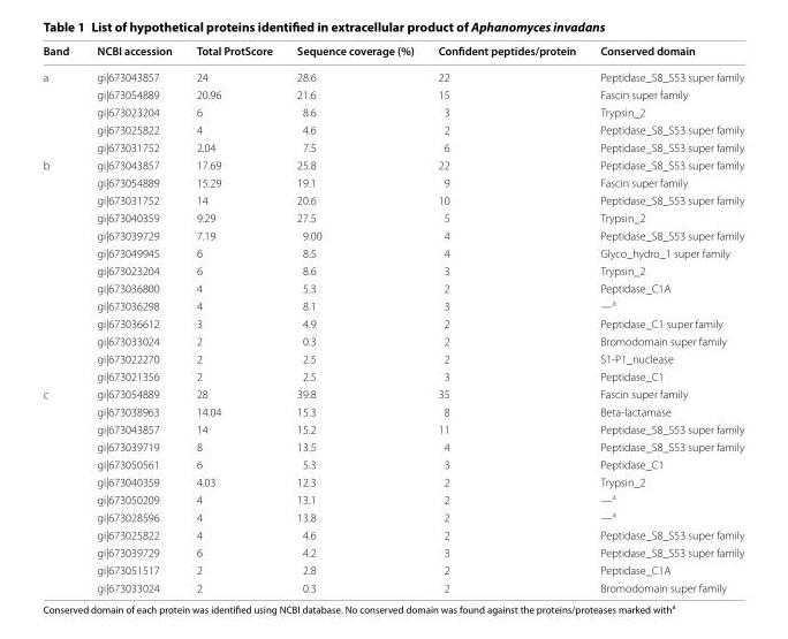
<table><thead><tr><td>Band</td><td>NCBI accession</td><td>Total ProtScore</td><td>Sequence coverage (%)</td><td>Confident peptides/protein</td><td>Conserved domain</td></tr></thead><tbody><tr><td rowspan="5">a</td><td>gi|673043857</td><td>24</td><td>28.6</td><td>22</td><td>Peptidase_S8_S53 super family</td></tr><tr><td>gi|673054889</td><td>20.96</td><td>21.6</td><td>15</td><td>Fascin super family</td></tr><tr><td>gi|673023204</td><td>6</td><td>8.6</td><td>3</td><td>Trypsin_2</td></tr><tr><td>gi|673025822</td><td>4</td><td>4.6</td><td>2</td><td>Peptidase_S8_S53 super family</td></tr><tr><td>gi|673031752</td><td>2.04</td><td>7.5</td><td>6</td><td>Peptidase_S8_S53 super family</td></tr><tr><td rowspan="13">b</td><td>gi|673043857</td><td>17.69</td><td>25.8</td><td>22</td><td>Peptidase_S8_S53 super family</td></tr><tr><td>gi|673054889</td><td>15.29</td><td>19.1</td><td>9</td><td>Fascin super family</td></tr><tr><td>gi|673031752</td><td>14</td><td>20.6</td><td>10</td><td>Peptidase_S8_S53 super family</td></tr><tr><td>gi|673040359</td><td>9.29</td><td>27.5</td><td>5</td><td>Trypsin_2</td></tr><tr><td>gi|673039729</td><td>7.19</td><td>9.00</td><td>4</td><td>Peptidase_S8_S53 super family</td></tr><tr><td>gi|673049945</td><td>6</td><td>8.5</td><td>4</td><td>Glyco_hydro_1 super family</td></tr><tr><td>gi|673023204</td><td>6</td><td>8.6</td><td>3</td><td>Trypsin_2</td></tr><tr><td>gi|673036800</td><td>4</td><td>5.3</td><td>2</td><td>Peptidase_C1A</td></tr><tr><td>gi|673036298</td><td>4</td><td>8.1</td><td>3</td><td>—<sup>a</sup></td></tr><tr><td>gi|673036612</td><td>3</td><td>4.9</td><td>2</td><td>Peptidase_C1 super family</td></tr><tr><td>gi|673033024</td><td>2</td><td>0.3</td><td>2</td><td>Bromodomain super family</td></tr><tr><td>gi|673022270</td><td>2</td><td>2.5</td><td>2</td><td>S1‑P1_nuclease</td></tr><tr><td>gi|673021356</td><td>2</td><td>2.5</td><td>3</td><td>Peptidase_C1</td></tr><tr><td rowspan="12">c</td><td>gi|673054889</td><td>28</td><td>39.8</td><td>35</td><td>Fascin super family</td></tr><tr><td>gi|673038963</td><td>14.04</td><td>15.3</td><td>8</td><td>Beta‑lactamase</td></tr><tr><td>gi|673043857</td><td>14</td><td>15.2</td><td>11</td><td>Peptidase_S8_S53 super family</td></tr><tr><td>gi|673039719</td><td>8</td><td>13.5</td><td>4</td><td>Peptidase_S8_S53 super family</td></tr><tr><td>gi|673050561</td><td>6</td><td>5.3</td><td>3</td><td>Peptidase_C1</td></tr><tr><td>gi|673040359</td><td>4.03</td><td>12.3</td><td>2</td><td>Trypsin_2</td></tr><tr><td>gi|673050209</td><td>4</td><td>13.1</td><td>2</td><td>—<sup>a</sup></td></tr><tr><td>gi|673028596</td><td>4</td><td>13.8</td><td>2</td><td>—<sup>a</sup></td></tr><tr><td>gi|673025822</td><td>4</td><td>4.6</td><td>2</td><td>Peptidase_S8_S53 super family</td></tr><tr><td>gi|673039729</td><td>6</td><td>4.2</td><td>3</td><td>Peptidase_S8_S53 super family</td></tr><tr><td>gi|673051517</td><td>2</td><td>2.8</td><td>2</td><td>Peptidase_C1A</td></tr><tr><td>gi|673033024</td><td>2</td><td>0.3</td><td>2</td><td>Bromodomain super family</td></tr></tbody></table>